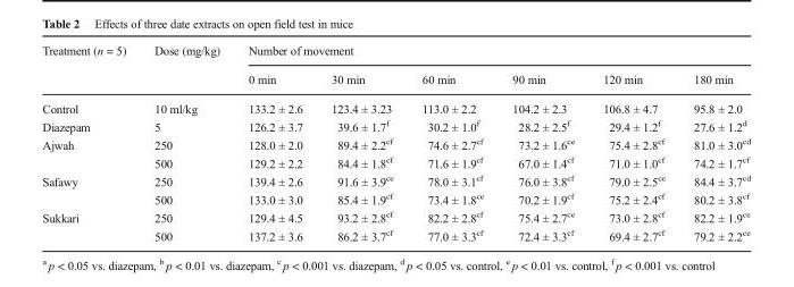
<table><thead><tr><td rowspan="2">Treatment (n = 5)</td><td rowspan="2">Dose (mg/kg)</td><td colspan="6">Number of movement</td></tr><tr><td>0 min</td><td>30 min</td><td>60 min</td><td>90 min</td><td>120 min</td><td>180 min</td></tr></thead><tbody><tr><td>Control</td><td>10 ml/kg</td><td>133.2 ± 2.6</td><td>123.4 ± 3.23</td><td>113.0 ± 2.2</td><td>104.2 ± 2.3</td><td>106.8 ± 4.7</td><td>95.8 ± 2.0</td></tr><tr><td>Diazepam</td><td>5</td><td>126.2 ± 3.7</td><td>39.6 ± 1.7<sup>f</sup></td><td>30.2 ± 1.0<sup>f</sup></td><td>28.2 ± 2.5<sup>f</sup></td><td>29.4 ± 1.2<sup>f</sup></td><td>27.6 ± 1.2<sup>d</sup></td></tr><tr><td rowspan="2">Ajwah</td><td>250</td><td>128.0 ± 2.0</td><td>89.4 ± 2.2<sup>cf</sup></td><td>74.6 ± 2.7<sup>cf</sup></td><td>73.2 ± 1.6<sup>ce</sup></td><td>75.4 ± 2.8<sup>cf</sup></td><td>81.0 ± 3.0<sup>cd</sup></td></tr><tr><td>500</td><td>129.2 ± 2.2</td><td>84.4 ± 1.8<sup>cf</sup></td><td>71.6 ± 1.9<sup>cf</sup></td><td>67.0 ± 1.4<sup>cf</sup></td><td>71.0 ± 1.0<sup>cf</sup></td><td>74.2 ± 1.7<sup>cf</sup></td></tr><tr><td rowspan="2">Safawy</td><td>250</td><td>139.4 ± 2.6</td><td>91.6 ± 3.9<sup>ce</sup></td><td>78.0 ± 3.1<sup>cf</sup></td><td>76.0 ± 3.8<sup>cf</sup></td><td>79.0 ± 2.5<sup>ce</sup></td><td>84.4 ± 3.7<sup>cd</sup></td></tr><tr><td>500</td><td>133.0 ± 3.0</td><td>85.4 ± 1.9<sup>cf</sup></td><td>73.4 ± 1.8<sup>ce</sup></td><td>70.2 ± 1.9<sup>cf</sup></td><td>75.2 ± 2.4<sup>cf</sup></td><td>80.2 ± 3.8<sup>cf</sup></td></tr><tr><td rowspan="2">Sukkari</td><td>250</td><td>129.4 ± 4.5</td><td>93.2 ± 2.8<sup>cf</sup></td><td>82.2 ± 2.8<sup>cf</sup></td><td>75.4 ± 2.7<sup>ce</sup></td><td>73.0 ± 2.8<sup>cf</sup></td><td>82.2 ± 1.9<sup>ce</sup></td></tr><tr><td>500</td><td>137.2 ± 3.6</td><td>86.2 ± 3.7<sup>cf</sup></td><td>77.0 ± 3.3<sup>cf</sup></td><td>72.4 ± 3.3<sup>cf</sup></td><td>69.4 ± 2.7<sup>cf</sup></td><td>79.2 ± 2.2<sup>ce</sup></td></tr></tbody></table>